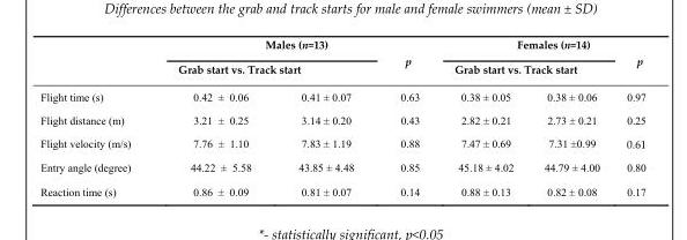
<table><thead><tr><td rowspan="3">Flight time (s)</td><td rowspan="2" colspan="2">Males (n=13) Grab start vs. Track start</td><td rowspan="3">p 0.63</td><td rowspan="2" colspan="2">Females (n=14) Grab start vs. Track start</td><td rowspan="3">p 0.97</td></tr><tr></tr><tr><td>0.42 ± 0.06</td><td>0.41 ± 0.07</td><td>0.38 ± 0.05</td><td>0.38 ± 0.06</td></tr></thead><tbody><tr><td>Flight distance (m)</td><td>3.21 ± 0.25</td><td>3.14 ± 0.20</td><td>0.43</td><td>2.82 ± 0.21</td><td>2.73 ± 0.21</td><td>0.25</td></tr><tr><td>Flight velocity (m/s)</td><td>7.76 ± 1.10</td><td>7.83 ± 1.19</td><td>0.88</td><td>7.47 ± 0.69</td><td>7.31 ±0.99</td><td>0.61</td></tr><tr><td>Entry angle (degree)</td><td>44.22 ± 5.58</td><td>43.85 ± 4.48</td><td>0.85</td><td>45.18 ± 4.02</td><td>44.79 ± 4.00</td><td>0.80</td></tr><tr><td>Reaction time (s)</td><td>0.86 ± 0.09</td><td>0.81 ± 0.07</td><td>0.14</td><td>0.88 ± 0.13</td><td>0.82 ± 0.08</td><td>0.17</td></tr></tbody></table>